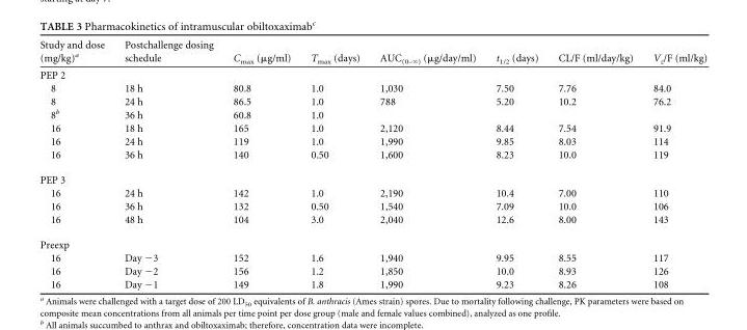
<table><thead><tr><td>Study and dose (mg/kg)<sup>a</sup></td><td>Postchallenge dosing schedule</td><td>C<sub>max</sub> (μg/ml)</td><td>T<sub>max</sub> (days)</td><td>AUC<sub>(0–∞)</sub> (μg/day/ml)</td><td>t<sub>1/2</sub> (days)</td><td>CL/F (ml/day/kg)</td><td>V<sub>z</sub>/F (ml/kg)</td></tr></thead><tbody><tr><td colspan="8">PEP 2</td></tr><tr><td>8</td><td>18 h</td><td>80.8</td><td>1.0</td><td>1,030</td><td>7.50</td><td>7.76</td><td>84.0</td></tr><tr><td>8</td><td>24 h</td><td>86.5</td><td>1.0</td><td>788</td><td>5.20</td><td>10.2</td><td>76.2</td></tr><tr><td>8<sup>b</sup></td><td>36 h</td><td>60.8</td><td>1.0</td><td></td><td></td><td></td><td></td></tr><tr><td>16</td><td>18 h</td><td>165</td><td>1.0</td><td>2,120</td><td>8.44</td><td>7.54</td><td>91.9</td></tr><tr><td>16</td><td>24 h</td><td>119</td><td>1.0</td><td>1,990</td><td>9.85</td><td>8.03</td><td>114</td></tr><tr><td>16</td><td>36 h</td><td>140</td><td>0.50</td><td>1,600</td><td>8.23</td><td>10.0</td><td>119</td></tr><tr><td colspan="8">PEP 3</td></tr><tr><td>16</td><td>24 h</td><td>142</td><td>1.0</td><td>2,190</td><td>10.4</td><td>7.00</td><td>110</td></tr><tr><td>16</td><td>36 h</td><td>132</td><td>0.50</td><td>1,540</td><td>7.09</td><td>10.0</td><td>106</td></tr><tr><td>16</td><td>48 h</td><td>104</td><td>3.0</td><td>2,040</td><td>12.6</td><td>8.00</td><td>143</td></tr><tr><td colspan="8">Preexp</td></tr><tr><td>16</td><td>Day −3</td><td>152</td><td>1.6</td><td>1,940</td><td>9.95</td><td>8.55</td><td>117</td></tr><tr><td>16</td><td>Day −2</td><td>156</td><td>1.2</td><td>1,850</td><td>10.0</td><td>8.93</td><td>126</td></tr><tr><td>16</td><td>Day −1</td><td>149</td><td>1.8</td><td>1,990</td><td>9.23</td><td>8.26</td><td>108</td></tr></tbody></table>